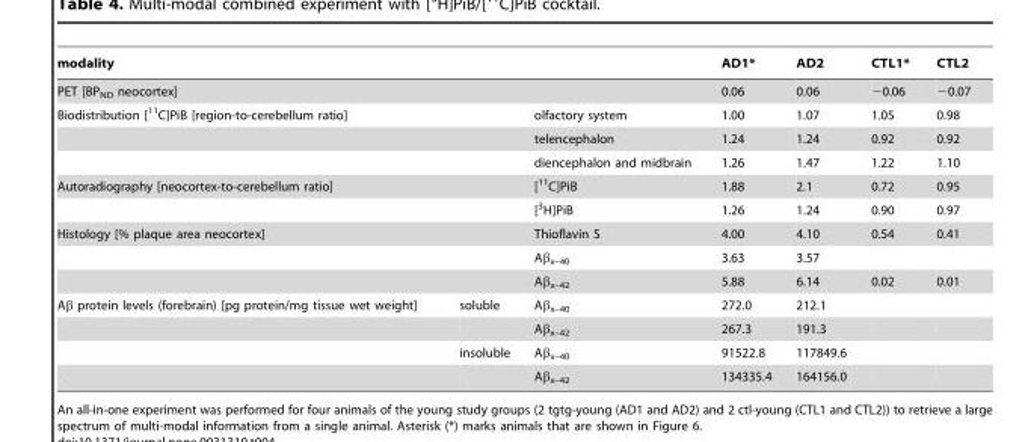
<table><thead><tr><td colspan="2">modality</td><td></td><td>AD1*</td><td>AD2</td><td>CTL1*</td><td>CTL2</td></tr></thead><tbody><tr><td colspan="2">PET [BP<sub>ND</sub> neocortex]</td><td></td><td>0.06</td><td>0.06</td><td>−0.06</td><td>−0.07</td></tr><tr><td rowspan="3" colspan="2">Biodistribution [<sup>11</sup>C]PiB [region-to-cerebellum ratio]</td><td>olfactory system</td><td>1.00</td><td>1.07</td><td>1.05</td><td>0.98</td></tr><tr><td>telencephalon</td><td>1.24</td><td>1.24</td><td>0.92</td><td>0.92</td></tr><tr><td>diencephalon and midbrain</td><td>1.26</td><td>1.47</td><td>1.22</td><td>1.10</td></tr><tr><td rowspan="2" colspan="2">Autoradiography [neocortex-to-cerebellum ratio]</td><td>[<sup>11</sup>C]PiB</td><td>1.88</td><td>2.1</td><td>0.72</td><td>0.95</td></tr><tr><td>[<sup>3</sup>H]PiB</td><td>1.26</td><td>1.24</td><td>0.90</td><td>0.97</td></tr><tr><td rowspan="3" colspan="2">Histology [% plaque area neocortex]</td><td>Thioflavin S</td><td>4.00</td><td>4.10</td><td>0.54</td><td>0.41</td></tr><tr><td>Aβ<sub>x–40</sub></td><td>3.63</td><td>3.57</td><td></td><td></td></tr><tr><td>Aβ<sub>x–42</sub></td><td>5.88</td><td>6.14</td><td>0.02</td><td>0.01</td></tr><tr><td rowspan="4">Aβ protein levels (forebrain) [pg protein/mg tissue wet weight]</td><td>soluble</td><td>Aβ<sub>x–40</sub></td><td>272.0</td><td>212.1</td><td></td><td></td></tr><tr><td></td><td>Aβ<sub>x–42</sub></td><td>267.3</td><td>191.3</td><td></td><td></td></tr><tr><td>insoluble</td><td>Aβ<sub>x–40</sub></td><td>91522.8</td><td>117849.6</td><td></td><td></td></tr><tr><td></td><td>Aβ<sub>x–42</sub></td><td>134335.4</td><td>164156.0</td><td></td><td></td></tr></tbody></table>